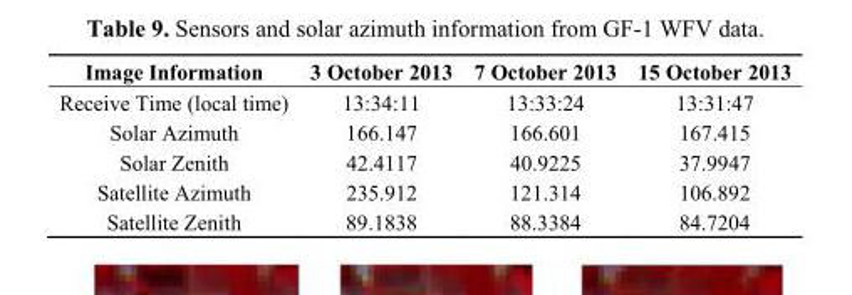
<table><thead><tr><td>Image Information</td><td>3 October 2013</td><td>7 October 2013</td><td>15 October 2013</td></tr></thead><tbody><tr><td>Receive Time (local time)</td><td>13:34:11</td><td>13:33:24</td><td>13:31:47</td></tr><tr><td>Solar Azimuth</td><td>166.147</td><td>166.601</td><td>167.415</td></tr><tr><td>Solar Zenith</td><td>42.4117</td><td>40.9225</td><td>37.9947</td></tr><tr><td>Satellite Azimuth</td><td>235.912</td><td>121.314</td><td>106.892</td></tr><tr><td>Satellite Zenith</td><td>89.1838</td><td>88.3384</td><td>84.7204</td></tr></tbody></table>